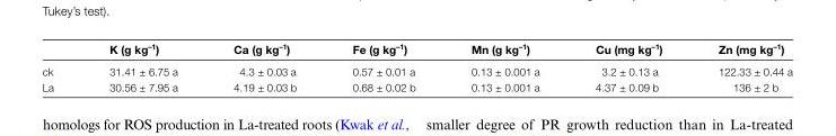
<table><thead><tr><td></td><td>K (g kg<sup>–1</sup>)</td><td>Ca (g kg<sup>–1</sup>)</td><td>Fe (g kg<sup>–1</sup>)</td><td>Mn (g kg<sup>–1</sup>)</td><td>Cu (mg kg<sup>–1</sup>)</td><td>Zn (mg kg<sup>–1</sup>)</td></tr></thead><tbody><tr><td>ck</td><td>31.41 ± 6.75 a</td><td>4.3 ± 0.03 a</td><td>0.57 ± 0.01 a</td><td>0.13 ± 0.001 a</td><td>3.2 ± 0.13 a</td><td>122.33 ± 0.44 a</td></tr><tr><td>La</td><td>30.56 ± 7.95 a</td><td>4.19 ± 0.03 b</td><td>0.68 ± 0.02 b</td><td>0.13 ± 0.001 a</td><td>4.37 ± 0.09 b</td><td>136 ± 2 b</td></tr></tbody></table>